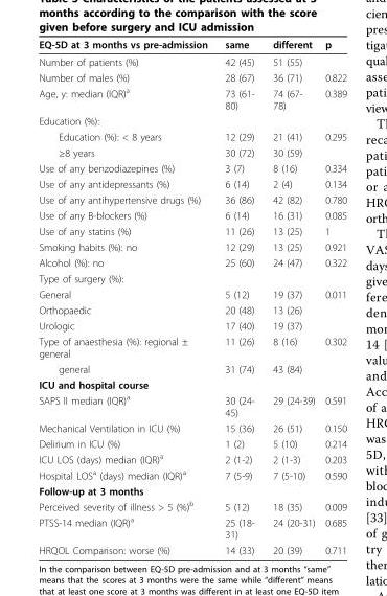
<table><thead><tr><td>EQ-5D at 3 months vs pre-admission</td><td>same</td><td>different</td><td>p</td></tr></thead><tbody><tr><td>Number of patients (%)</td><td>42 (45)</td><td>51 (55)</td><td></td></tr><tr><td>Number of males (%)</td><td>28 (67)</td><td>36 (71)</td><td>0.822</td></tr><tr><td>Age, y: median (IQR)<sup>a</sup></td><td>73 (61- 80)</td><td>74 (67- 78)</td><td>0.389</td></tr><tr><td colspan="4">Education (%):</td></tr><tr><td>Education (%): &lt; 8 years</td><td>12 (29)</td><td>21 (41)</td><td>0.295</td></tr><tr><td>≥8 years</td><td>30 (72)</td><td>30 (59)</td><td></td></tr><tr><td>Use of any benzodiazepines (%)</td><td>3 (7)</td><td>8 (16)</td><td>0.334</td></tr><tr><td>Use of any antidepressants (%)</td><td>6 (14)</td><td>2 (4)</td><td>0.134</td></tr><tr><td>Use of any antihypertensive drugs (%)</td><td>36 (86)</td><td>42 (82)</td><td>0.780</td></tr><tr><td>Use of any B-blockers (%)</td><td>6 (14)</td><td>16 (31)</td><td>0.085</td></tr><tr><td>Use of any statins (%)</td><td>11 (26)</td><td>13 (25)</td><td>1</td></tr><tr><td>Smoking habits (%): no</td><td>12 (29)</td><td>13 (25)</td><td>0.921</td></tr><tr><td>Alcohol (%): no</td><td>25 (60)</td><td>24 (47)</td><td>0.322</td></tr><tr><td colspan="4">Type of surgery (%):</td></tr><tr><td>General</td><td>5 (12)</td><td>19 (37)</td><td>0.011</td></tr><tr><td>Orthopaedic</td><td>20 (48)</td><td>13 (26)</td><td></td></tr><tr><td>Urologic</td><td>17 (40)</td><td>19 (37)</td><td></td></tr><tr><td>Type of anaesthesia (%): regional ± general</td><td>11 (26)</td><td>8 (16)</td><td>0.302</td></tr><tr><td>general</td><td>31 (74)</td><td>43 (84)</td><td></td></tr><tr><td colspan="4">ICU and hospital course</td></tr><tr><td>SAPS II median (IQR)<sup>a</sup></td><td>30 (24- 45)</td><td>29 (24-39)</td><td>0.591</td></tr><tr><td>Mechanical Ventilation in ICU (%)</td><td>15 (36)</td><td>26 (51)</td><td>0.150</td></tr><tr><td>Delirium in ICU (%)</td><td>1 (2)</td><td>5 (10)</td><td>0.214</td></tr><tr><td>ICU LOS (days) median (IQR)<sup>a</sup></td><td>2 (1-2)</td><td>2 (1-3)</td><td>0.203</td></tr><tr><td>Hospital LOS<sup>a</sup> (days) median (IQR)<sup>a</sup></td><td>7 (5-9)</td><td>7 (5-10)</td><td>0.590</td></tr><tr><td colspan="4">Follow-up at 3 months</td></tr><tr><td>Perceived severity of illness &gt; 5 (%)<sup>b</sup></td><td>5 (12)</td><td>18 (35)</td><td>0.009</td></tr><tr><td>PTSS-14 median (IQR)<sup>a</sup></td><td>25 (18- 31)</td><td>24 (20-31)</td><td>0.685</td></tr><tr><td>HRQOL Comparison: worse (%)</td><td>14 (33)</td><td>20 (39)</td><td>0.711</td></tr></tbody></table>